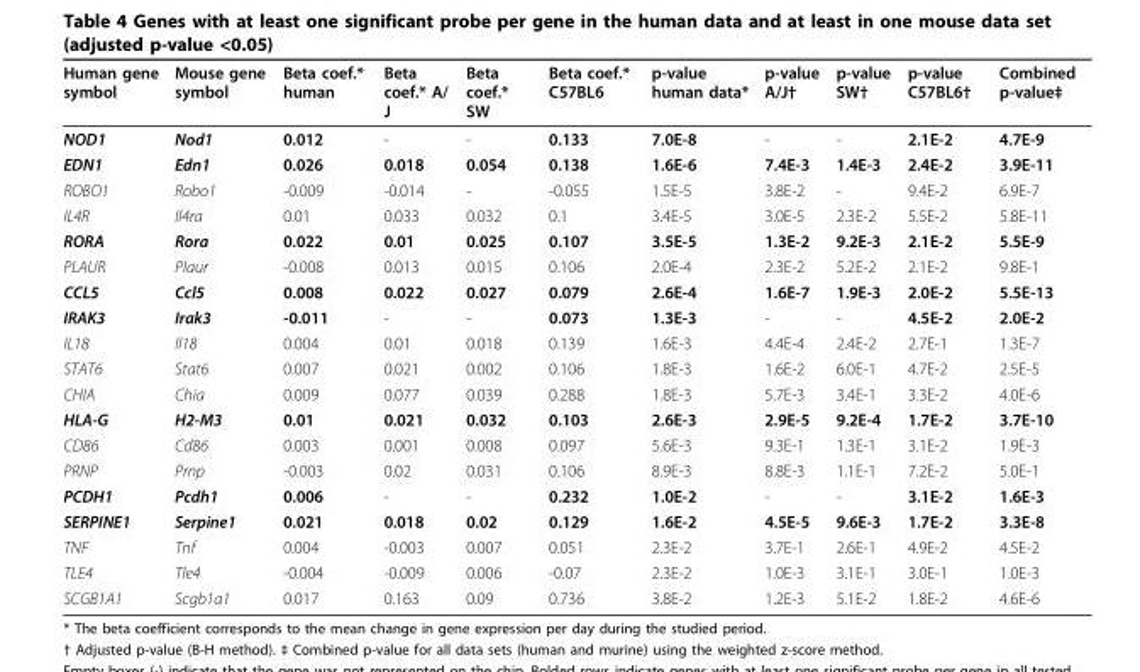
<table><thead><tr><td>Human gene symbol</td><td>Mouse gene symbol</td><td>Beta coef.* human</td><td>Beta coef.* A/ J</td><td>Beta coef.* SW</td><td>Beta coef.* C57BL6</td><td>p-value human data*</td><td>p-value A/J†</td><td>p-value SW†</td><td>p-value C57BL6†</td><td>Combined p-value‡</td></tr></thead><tbody><tr><td>NOD1</td><td>Nod1</td><td>0.012</td><td>-</td><td>-</td><td>0.133</td><td>7.0E-8</td><td>-</td><td>-</td><td>2.1E-2</td><td>4.7E-9</td></tr><tr><td>EDN1</td><td>Edn1</td><td>0.026</td><td>0.018</td><td>0.054</td><td>0.138</td><td>1.6E-6</td><td>7.4E-3</td><td>1.4E-3</td><td>2.4E-2</td><td>3.9E-11</td></tr><tr><td>ROBO1</td><td>Robo1</td><td>-0.009</td><td>-0.014</td><td>-</td><td>-0.055</td><td>1.5E-5</td><td>3.8E-2</td><td>-</td><td>9.4E-2</td><td>6.9E-7</td></tr><tr><td>IL4R</td><td>Il4ra</td><td>0.01</td><td>0.033</td><td>0.032</td><td>0.1</td><td>3.4E-5</td><td>3.0E-5</td><td>2.3E-2</td><td>5.5E-2</td><td>5.8E-11</td></tr><tr><td>RORA</td><td>Rora</td><td>0.022</td><td>0.01</td><td>0.025</td><td>0.107</td><td>3.5E-5</td><td>1.3E-2</td><td>9.2E-3</td><td>2.1E-2</td><td>5.5E-9</td></tr><tr><td>PLAUR</td><td>Plaur</td><td>-0.008</td><td>0.013</td><td>0.015</td><td>0.106</td><td>2.0E-4</td><td>2.3E-2</td><td>5.2E-2</td><td>2.1E-2</td><td>9.8E-1</td></tr><tr><td>CCL5</td><td>Ccl5</td><td>0.008</td><td>0.022</td><td>0.027</td><td>0.079</td><td>2.6E-4</td><td>1.6E-7</td><td>1.9E-3</td><td>2.0E-2</td><td>5.5E-13</td></tr><tr><td>IRAK3</td><td>Irak3</td><td>-0.011</td><td>-</td><td>-</td><td>0.073</td><td>1.3E-3</td><td>-</td><td>-</td><td>4.5E-2</td><td>2.0E-2</td></tr><tr><td>IL18</td><td>Il18</td><td>0.004</td><td>0.01</td><td>0.018</td><td>0.139</td><td>1.6E-3</td><td>4.4E-4</td><td>2.4E-2</td><td>2.7E-1</td><td>1.3E-7</td></tr><tr><td>STAT6</td><td>Stat6</td><td>0.007</td><td>0.021</td><td>0.002</td><td>0.106</td><td>1.8E-3</td><td>1.6E-2</td><td>6.0E-1</td><td>4.7E-2</td><td>2.5E-5</td></tr><tr><td>CHIA</td><td>Chia</td><td>0.009</td><td>0.077</td><td>0.039</td><td>0.288</td><td>1.8E-3</td><td>5.7E-3</td><td>3.4E-1</td><td>3.3E-2</td><td>4.0E-6</td></tr><tr><td>HLA-G</td><td>H2-M3</td><td>0.01</td><td>0.021</td><td>0.032</td><td>0.103</td><td>2.6E-3</td><td>2.9E-5</td><td>9.2E-4</td><td>1.7E-2</td><td>3.7E-10</td></tr><tr><td>CD86</td><td>Cd86</td><td>0.003</td><td>0.001</td><td>0.008</td><td>0.097</td><td>5.6E-3</td><td>9.3E-1</td><td>1.3E-1</td><td>3.1E-2</td><td>1.9E-3</td></tr><tr><td>PRNP</td><td>Prnp</td><td>-0.003</td><td>0.02</td><td>0.031</td><td>0.106</td><td>8.9E-3</td><td>8.8E-3</td><td>1.1E-1</td><td>7.2E-2</td><td>5.0E-1</td></tr><tr><td>PCDH1</td><td>Pcdh1</td><td>0.006</td><td>-</td><td>-</td><td>0.232</td><td>1.0E-2</td><td>-</td><td>-</td><td>3.1E-2</td><td>1.6E-3</td></tr><tr><td>SERPINE1</td><td>Serpine1</td><td>0.021</td><td>0.018</td><td>0.02</td><td>0.129</td><td>1.6E-2</td><td>4.5E-5</td><td>9.6E-3</td><td>1.7E-2</td><td>3.3E-8</td></tr><tr><td>TNF</td><td>Tnf</td><td>0.004</td><td>-0.003</td><td>0.007</td><td>0.051</td><td>2.3E-2</td><td>3.7E-1</td><td>2.6E-1</td><td>4.9E-2</td><td>4.5E-2</td></tr><tr><td>TLE4</td><td>Tle4</td><td>-0.004</td><td>-0.009</td><td>0.006</td><td>-0.07</td><td>2.3E-2</td><td>1.0E-3</td><td>3.1E-1</td><td>3.0E-1</td><td>1.0E-3</td></tr><tr><td>SCGB1A1</td><td>Scgb1a1</td><td>0.017</td><td>0.163</td><td>0.09</td><td>0.736</td><td>3.8E-2</td><td>1.2E-3</td><td>5.1E-2</td><td>1.8E-2</td><td>4.6E-6</td></tr></tbody></table>